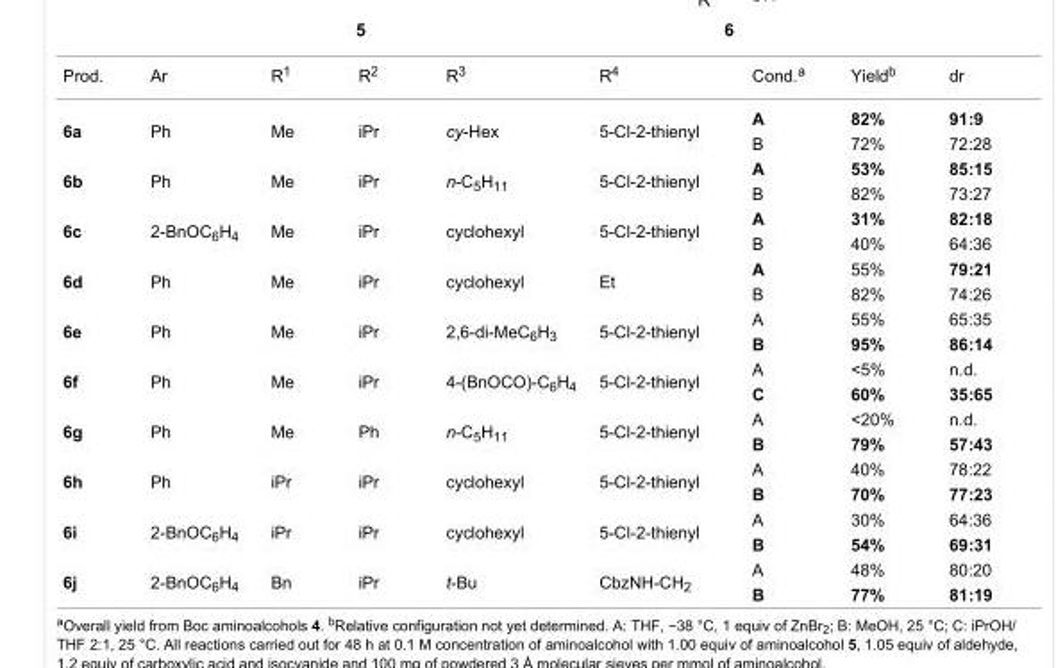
<table><tbody><tr><td>Prod.</td><td>Ar</td><td>R<sup>1</sup></td><td>R<sup>2</sup></td><td>R<sup>3</sup></td><td>R<sup>4</sup></td><td>Cond.<sup>a</sup></td><td>Yield<sup>b</sup></td><td>dr</td></tr><tr><td rowspan="2">6a</td><td rowspan="2">Ph</td><td rowspan="2">Me</td><td rowspan="2">iPr</td><td rowspan="2">cy-Hex</td><td rowspan="2">5-Cl-2-thienyl</td><td>A</td><td>82%</td><td>91:9</td></tr><tr><td>B</td><td>72%</td><td>72:28</td></tr><tr><td rowspan="2">6b</td><td rowspan="2">Ph</td><td rowspan="2">Me</td><td rowspan="2">iPr</td><td rowspan="2">n-C<sub>5</sub>H<sub>11</sub></td><td rowspan="2">5-Cl-2-thienyl</td><td>A</td><td>53%</td><td>85:15</td></tr><tr><td>B</td><td>82%</td><td>73:27</td></tr><tr><td rowspan="2">6c</td><td rowspan="2">2-BnOC<sub>6</sub>H<sub>4</sub></td><td rowspan="2">Me</td><td rowspan="2">iPr</td><td rowspan="2">cyclohexyl</td><td rowspan="2">5-Cl-2-thienyl</td><td>A</td><td>31%</td><td>82:18</td></tr><tr><td>B</td><td>40%</td><td>64:36</td></tr><tr><td rowspan="2">6d</td><td rowspan="2">Ph</td><td rowspan="2">Me</td><td rowspan="2">iPr</td><td rowspan="2">cyclohexyl</td><td rowspan="2">Et</td><td>A</td><td>55%</td><td>79:21</td></tr><tr><td>B</td><td>82%</td><td>74:26</td></tr><tr><td rowspan="2">6e</td><td rowspan="2">Ph</td><td rowspan="2">Me</td><td rowspan="2">iPr</td><td rowspan="2">2,6-di-MeC<sub>6</sub>H<sub>3</sub></td><td rowspan="2">5-Cl-2-thienyl</td><td>A</td><td>55%</td><td>65:35</td></tr><tr><td>B</td><td>95%</td><td>86:14</td></tr><tr><td rowspan="2">6f</td><td rowspan="2">Ph</td><td rowspan="2">Me</td><td rowspan="2">iPr</td><td rowspan="2">4-(BnOCO)-C<sub>6</sub>H<sub>4</sub></td><td rowspan="2">5-Cl-2-thienyl</td><td>A</td><td>&lt;5%</td><td>n.d.</td></tr><tr><td>C</td><td>60%</td><td>35:65</td></tr><tr><td rowspan="2">6g</td><td rowspan="2">Ph</td><td rowspan="2">Me</td><td rowspan="2">Ph</td><td rowspan="2">n-C<sub>5</sub>H<sub>11</sub></td><td rowspan="2">5-Cl-2-thienyl</td><td>A</td><td>&lt;20%</td><td>n.d.</td></tr><tr><td>B</td><td>79%</td><td>57:43</td></tr><tr><td rowspan="2">6h</td><td rowspan="2">Ph</td><td rowspan="2">iPr</td><td rowspan="2">iPr</td><td rowspan="2">cyclohexyl</td><td rowspan="2">5-Cl-2-thienyl</td><td>A</td><td>40%</td><td>78:22</td></tr><tr><td>B</td><td>70%</td><td>77:23</td></tr><tr><td rowspan="2">6i</td><td rowspan="2">2-BnOC<sub>6</sub>H<sub>4</sub></td><td rowspan="2">iPr</td><td rowspan="2">iPr</td><td rowspan="2">cyclohexyl</td><td rowspan="2">5-Cl-2-thienyl</td><td>A</td><td>30%</td><td>64:36</td></tr><tr><td>B</td><td>54%</td><td>69:31</td></tr><tr><td rowspan="2">6j</td><td rowspan="2">2-BnOC<sub>6</sub>H<sub>4</sub></td><td rowspan="2">Bn</td><td rowspan="2">iPr</td><td rowspan="2">t-Bu</td><td rowspan="2">CbzNH-CH<sub>2</sub></td><td>A</td><td>48%</td><td>80:20</td></tr><tr><td>B</td><td>77%</td><td>81:19</td></tr></tbody></table>